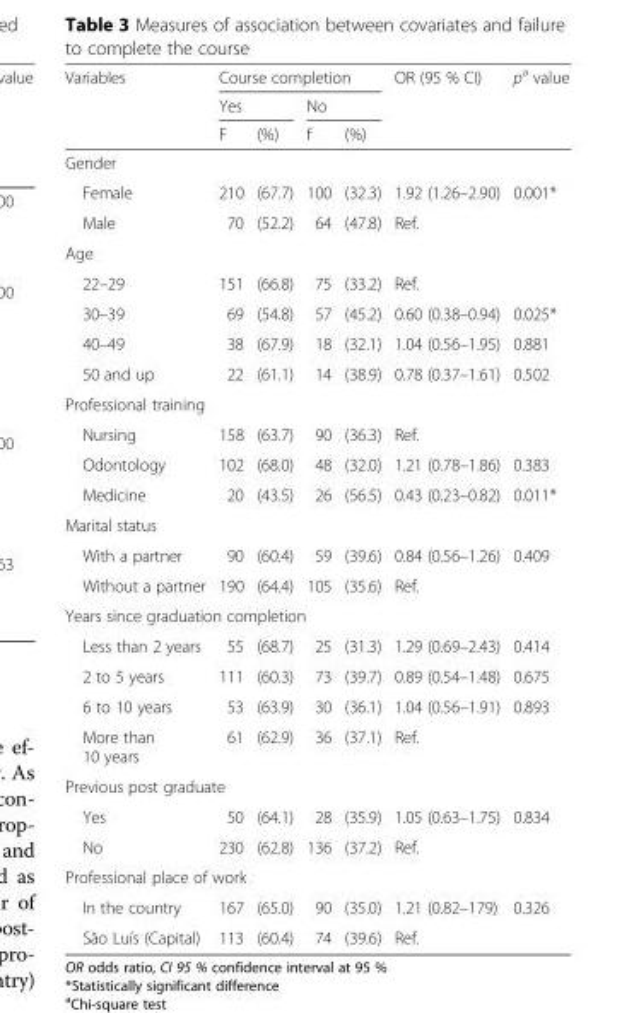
<table><thead><tr><td rowspan="3">Variables</td><td colspan="4">Course completion</td><td rowspan="3">OR (95 % CI)</td><td rowspan="3">p<sup>a</sup> value</td></tr><tr><td colspan="2">Yes</td><td colspan="2">No</td></tr><tr><td>F</td><td>(%)</td><td>f</td><td>(%)</td></tr></thead><tbody><tr><td colspan="7">Gender</td></tr><tr><td>Female</td><td>210</td><td>(67.7)</td><td>100</td><td>(32.3)</td><td>1.92 (1.26–2.90)</td><td>0.001*</td></tr><tr><td>Male</td><td>70</td><td>(52.2)</td><td>64</td><td>(47.8)</td><td>Ref.</td><td></td></tr><tr><td colspan="7">Age</td></tr><tr><td>22–29</td><td>151</td><td>(66.8)</td><td>75</td><td>(33.2)</td><td>Ref.</td><td></td></tr><tr><td>30–39</td><td>69</td><td>(54.8)</td><td>57</td><td>(45.2)</td><td>0.60 (0.38–0.94)</td><td>0.025*</td></tr><tr><td>40–49</td><td>38</td><td>(67.9)</td><td>18</td><td>(32.1)</td><td>1.04 (0.56–1.95)</td><td>0.881</td></tr><tr><td>50 and up</td><td>22</td><td>(61.1)</td><td>14</td><td>(38.9)</td><td>0.78 (0.37–1.61)</td><td>0.502</td></tr><tr><td colspan="7">Professional training</td></tr><tr><td>Nursing</td><td>158</td><td>(63.7)</td><td>90</td><td>(36.3)</td><td>Ref.</td><td></td></tr><tr><td>Odontology</td><td>102</td><td>(68.0)</td><td>48</td><td>(32.0)</td><td>1.21 (0.78–1.86)</td><td>0.383</td></tr><tr><td>Medicine</td><td>20</td><td>(43.5)</td><td>26</td><td>(56.5)</td><td>0.43 (0.23–0.82)</td><td>0.011*</td></tr><tr><td colspan="7">Marital status</td></tr><tr><td>With a partner</td><td>90</td><td>(60.4)</td><td>59</td><td>(39.6)</td><td>0.84 (0.56–1.26)</td><td>0.409</td></tr><tr><td>Without a partner</td><td>190</td><td>(64.4)</td><td>105</td><td>(35.6)</td><td>Ref.</td><td></td></tr><tr><td colspan="7">Years since graduation completion</td></tr><tr><td>Less than 2 years</td><td>55</td><td>(68.7)</td><td>25</td><td>(31.3)</td><td>1.29 (0.69–2.43)</td><td>0.414</td></tr><tr><td>2 to 5 years</td><td>111</td><td>(60.3)</td><td>73</td><td>(39.7)</td><td>0.89 (0.54–1.48)</td><td>0.675</td></tr><tr><td>6 to 10 years</td><td>53</td><td>(63.9)</td><td>30</td><td>(36.1)</td><td>1.04 (0.56–1.91)</td><td>0.893</td></tr><tr><td>More than 10 years</td><td>61</td><td>(62.9)</td><td>36</td><td>(37.1)</td><td>Ref.</td><td></td></tr><tr><td colspan="7">Previous post graduate</td></tr><tr><td>Yes</td><td>50</td><td>(64.1)</td><td>28</td><td>(35.9)</td><td>1.05 (0.63–1.75)</td><td>0.834</td></tr><tr><td>No</td><td>230</td><td>(62.8)</td><td>136</td><td>(37.2)</td><td>Ref.</td><td></td></tr><tr><td colspan="7">Professional place of work</td></tr><tr><td>In the country</td><td>167</td><td>(65.0)</td><td>90</td><td>(35.0)</td><td>1.21 (0.82–179)</td><td>0.326</td></tr><tr><td>São Luís (Capital)</td><td>113</td><td>(60.4)</td><td>74</td><td>(39.6)</td><td>Ref.</td><td></td></tr></tbody></table>